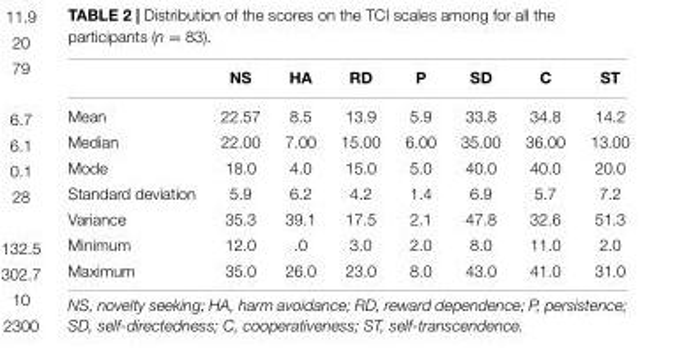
<table><thead><tr><td></td><td>NS</td><td>HA</td><td>RD</td><td>P</td><td>SD</td><td>C</td><td>ST</td></tr></thead><tbody><tr><td>Mean</td><td>22.57</td><td>8.5</td><td>13.9</td><td>5.9</td><td>33.8</td><td>34.8</td><td>14.2</td></tr><tr><td>Median</td><td>22.00</td><td>7.00</td><td>15.00</td><td>6.00</td><td>35.00</td><td>36.00</td><td>13.00</td></tr><tr><td>Mode</td><td>18.0</td><td>4.0</td><td>15.0</td><td>5.0</td><td>40.0</td><td>40.0</td><td>20.0</td></tr><tr><td>Standard deviation</td><td>5.9</td><td>6.2</td><td>4.2</td><td>1.4</td><td>6.9</td><td>5.7</td><td>7.2</td></tr><tr><td>Variance</td><td>35.3</td><td>39.1</td><td>17.5</td><td>2.1</td><td>47.8</td><td>32.6</td><td>51.3</td></tr><tr><td>Minimum</td><td>12.0</td><td>.0</td><td>3.0</td><td>2.0</td><td>8.0</td><td>11.0</td><td>2.0</td></tr><tr><td>Maximum</td><td>35.0</td><td>26.0</td><td>23.0</td><td>8.0</td><td>43.0</td><td>41.0</td><td>31.0</td></tr></tbody></table>